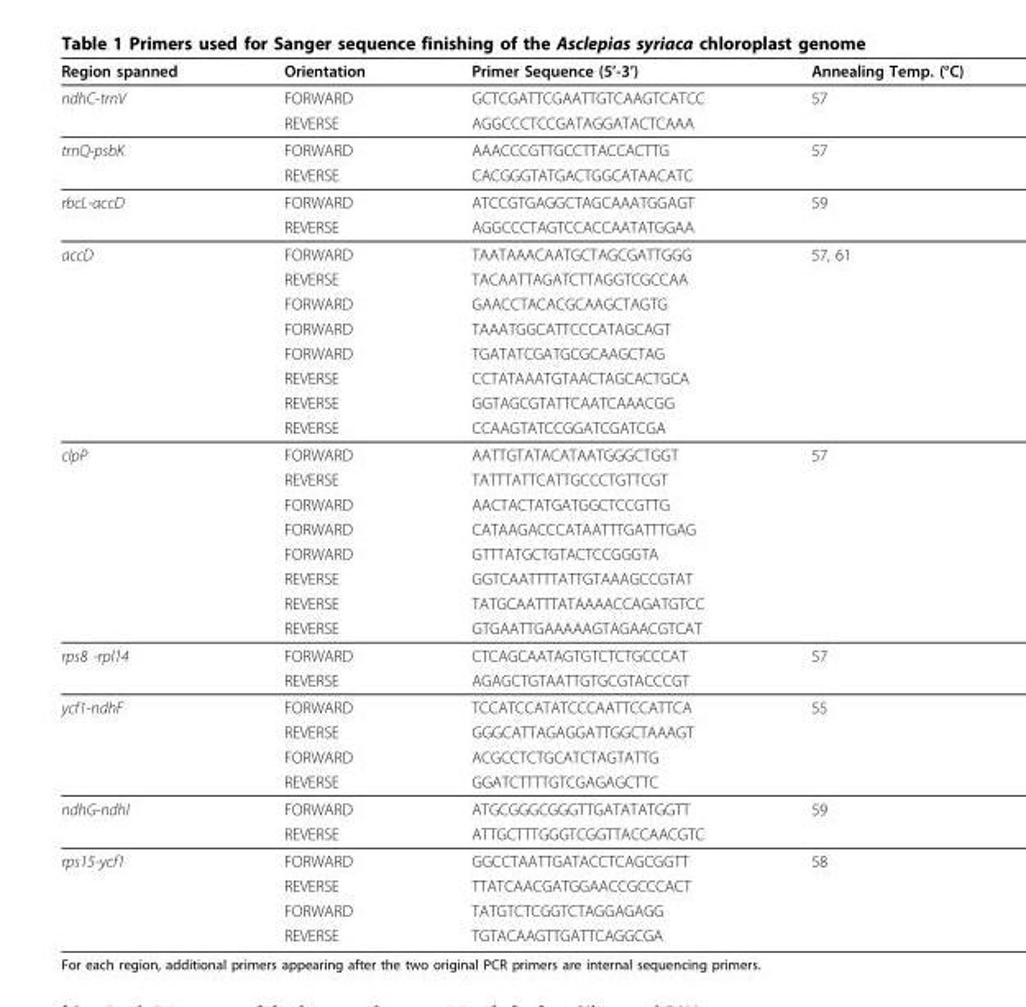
<table><thead><tr><td>Region spanned</td><td>Orientation</td><td>Primer Sequence (5’-3’)</td><td>Annealing Temp. (°C)</td></tr></thead><tbody><tr><td rowspan="2">ndhC-trnV</td><td>FORWARD</td><td>GCTCGATTCGAATTGTCAAGTCATCC</td><td>57</td></tr><tr><td>REVERSE</td><td>AGGCCCTCCGATAGGATACTCAAA</td><td></td></tr><tr><td rowspan="2">trnQ-psbK</td><td>FORWARD</td><td>AAACCCGTTGCCTTACCACTTG</td><td>57</td></tr><tr><td>REVERSE</td><td>CACGGGTATGACTGGCATAACATC</td><td></td></tr><tr><td rowspan="2">rbcL-accD</td><td>FORWARD</td><td>ATCCGTGAGGCTAGCAAATGGAGT</td><td>59</td></tr><tr><td>REVERSE</td><td>AGGCCCTAGTCCACCAATATGGAA</td><td></td></tr><tr><td rowspan="8">accD</td><td>FORWARD</td><td>TAATAAACAATGCTAGCGATTGGG</td><td>57, 61</td></tr><tr><td>REVERSE</td><td>TACAATTAGATCTTAGGTCGCCAA</td><td></td></tr><tr><td>FORWARD</td><td>GAACCTACACGCAAGCTAGTG</td><td></td></tr><tr><td>FORWARD</td><td>TAAATGGCATTCCCATAGCAGT</td><td></td></tr><tr><td>FORWARD</td><td>TGATATCGATGCGCAAGCTAG</td><td></td></tr><tr><td>REVERSE</td><td>CCTATAAATGTAACTAGCACTGCA</td><td></td></tr><tr><td>REVERSE</td><td>GGTAGCGTATTCAATCAAACGG</td><td></td></tr><tr><td>REVERSE</td><td>CCAAGTATCCGGATCGATCGA</td><td></td></tr><tr><td rowspan="8">clpP</td><td>FORWARD</td><td>AATTGTATACATAATGGGCTGGT</td><td>57</td></tr><tr><td>REVERSE</td><td>TATTTATTCATTGCCCTGTTCGT</td><td></td></tr><tr><td>FORWARD</td><td>AACTACTATGATGGCTCCGTTG</td><td></td></tr><tr><td>FORWARD</td><td>CATAAGACCCATAATTTGATTTGAG</td><td></td></tr><tr><td>FORWARD</td><td>GTTTATGCTGTACTCCGGGTA</td><td></td></tr><tr><td>REVERSE</td><td>GGTCAATTTTATTGTAAAGCCGTAT</td><td></td></tr><tr><td>REVERSE</td><td>TATGCAATTTATAAAACCAGATGTCC</td><td></td></tr><tr><td>REVERSE</td><td>GTGAATTGAAAAAGTAGAACGTCAT</td><td></td></tr><tr><td rowspan="2">rps8 -rpl14</td><td>FORWARD</td><td>CTCAGCAATAGTGTCTCTGCCCAT</td><td>57</td></tr><tr><td>REVERSE</td><td>AGAGCTGTAATTGTGCGTACCCGT</td><td></td></tr><tr><td rowspan="4">ycf1-ndhF</td><td>FORWARD</td><td>TCCATCCATATCCCAATTCCATTCA</td><td>55</td></tr><tr><td>REVERSE</td><td>GGGCATTAGAGGATTGGCTAAAGT</td><td></td></tr><tr><td>FORWARD</td><td>ACGCCTCTGCATCTAGTATTG</td><td></td></tr><tr><td>REVERSE</td><td>GGATCTTTTGTCGAGAGCTTC</td><td></td></tr><tr><td rowspan="2">ndhG-ndhI</td><td>FORWARD</td><td>ATGCGGGCGGGTTGATATATGGTT</td><td>59</td></tr><tr><td>REVERSE</td><td>ATTGCTTTGGGTCGGTTACCAACGTC</td><td></td></tr><tr><td rowspan="4">rps15-ycf1</td><td>FORWARD</td><td>GGCCTAATTGATACCTCAGCGGTT</td><td>58</td></tr><tr><td>REVERSE</td><td>TTATCAACGATGGAACCGCCCACT</td><td></td></tr><tr><td>FORWARD</td><td>TATGTCTCGGTCTAGGAGAGG</td><td></td></tr><tr><td>REVERSE</td><td>TGTACAAGTTGATTCAGGCGA</td><td></td></tr></tbody></table>